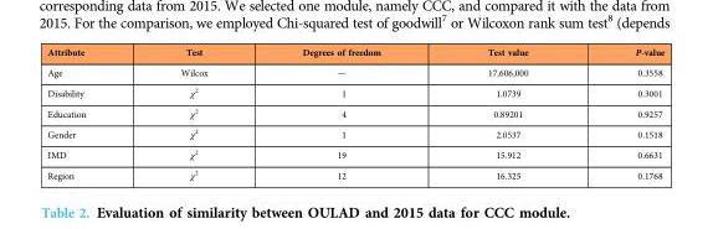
<table><thead><tr><td>Attribute</td><td>Test</td><td>Degrees of freedom</td><td>Test value</td><td>P-value</td></tr></thead><tbody><tr><td>Age</td><td>Wilcox</td><td>—</td><td>17,606,000</td><td>0.3558</td></tr><tr><td>Disability</td><td>χ<sup>2</sup></td><td>1</td><td>1.0739</td><td>0.3001</td></tr><tr><td>Education</td><td>χ<sup>2</sup></td><td>4</td><td>0.89201</td><td>0.9257</td></tr><tr><td>Gender</td><td>χ<sup>2</sup></td><td>1</td><td>2.0537</td><td>0.1518</td></tr><tr><td>IMD</td><td>χ<sup>2</sup></td><td>19</td><td>15.912</td><td>0.6631</td></tr><tr><td>Region</td><td>χ<sup>2</sup></td><td>12</td><td>16.325</td><td>0.1768</td></tr></tbody></table>